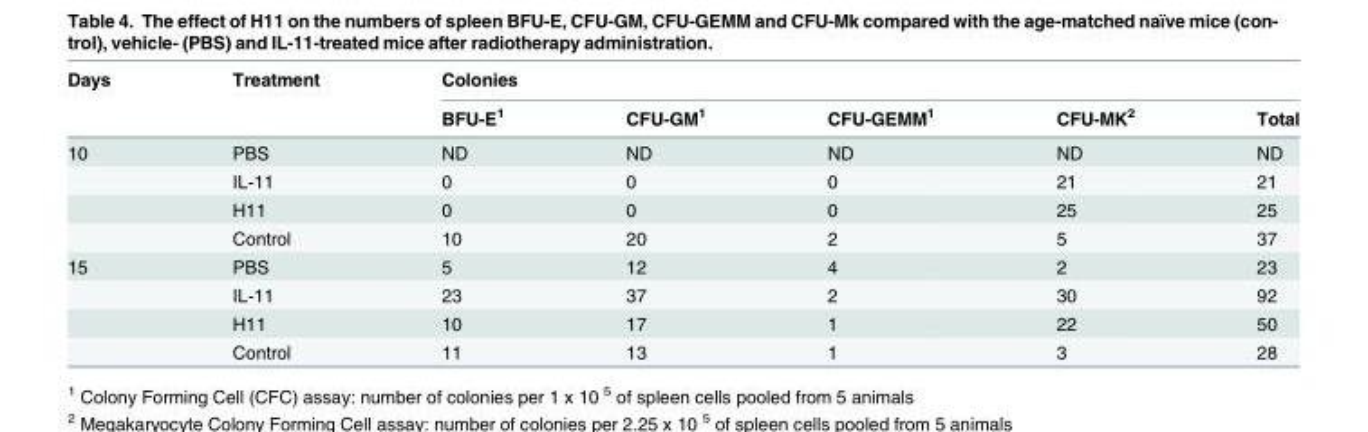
<table><thead><tr><td rowspan="2">Days</td><td rowspan="2">Treatment</td><td colspan="5">Colonies</td></tr><tr><td>BFU-E<sup>1</sup></td><td>CFU-GM<sup>1</sup></td><td>CFU-GEMM<sup>1</sup></td><td>CFU-MK<sup>2</sup></td><td>Total</td></tr></thead><tbody><tr><td rowspan="4">10</td><td>PBS</td><td>ND</td><td>ND</td><td>ND</td><td>ND</td><td>ND</td></tr><tr><td>IL-11</td><td>0</td><td>0</td><td>0</td><td>21</td><td>21</td></tr><tr><td>H11</td><td>0</td><td>0</td><td>0</td><td>25</td><td>25</td></tr><tr><td>Control</td><td>10</td><td>20</td><td>2</td><td>5</td><td>37</td></tr><tr><td rowspan="4">15</td><td>PBS</td><td>5</td><td>12</td><td>4</td><td>2</td><td>23</td></tr><tr><td>IL-11</td><td>23</td><td>37</td><td>2</td><td>30</td><td>92</td></tr><tr><td>H11</td><td>10</td><td>17</td><td>1</td><td>22</td><td>50</td></tr><tr><td>Control</td><td>11</td><td>13</td><td>1</td><td>3</td><td>28</td></tr></tbody></table>